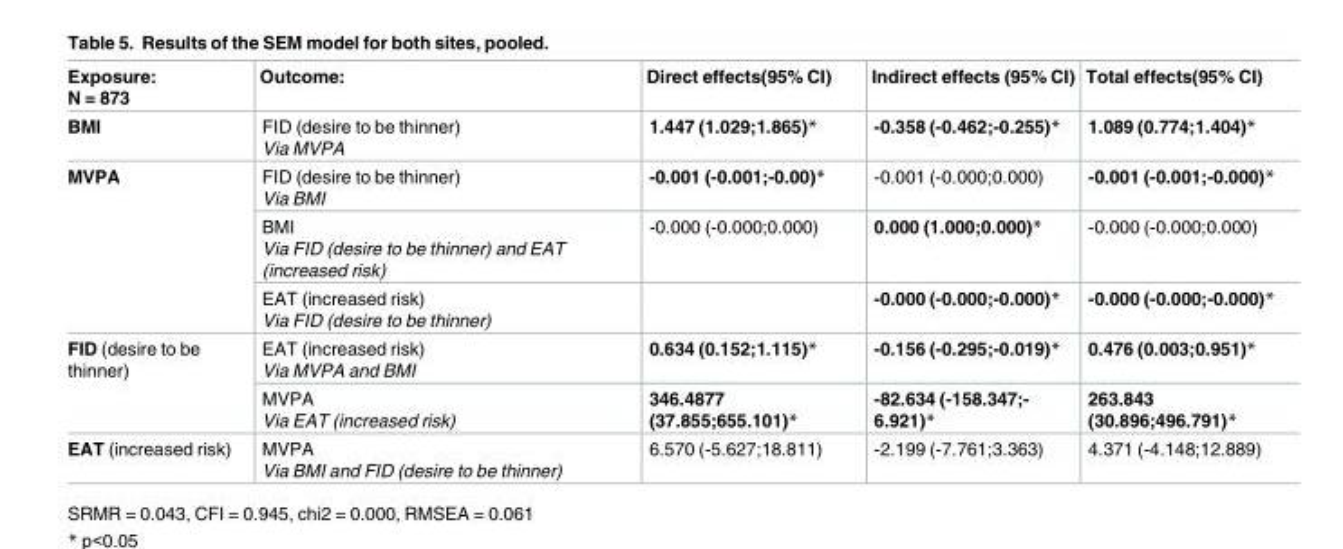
<table><thead><tr><td>Exposure: N = 873</td><td>Outcome:</td><td>Direct effects(95% CI)</td><td>Indirect effects (95% CI)</td><td>Total effects(95% CI)</td></tr></thead><tbody><tr><td>BMI</td><td>FID (desire to be thinner) Via MVPA</td><td>1.447 (1.029;1.865)*</td><td>-0.358 (-0.462;-0.255)*</td><td>1.089 (0.774;1.404)*</td></tr><tr><td rowspan="3">MVPA</td><td>FID (desire to be thinner) Via BMI</td><td>-0.001 (-0.001;-0.00)*</td><td>-0.001 (-0.000;0.000)</td><td>-0.001 (-0.001;-0.000)*</td></tr><tr><td>BMI Via FID (desire to be thinner) and EAT (increased risk)</td><td>-0.000 (-0.000;0.000)</td><td>0.000 (1.000;0.000)*</td><td>-0.000 (-0.000;0.000)</td></tr><tr><td>EAT (increased risk) Via FID (desire to be thinner)</td><td></td><td>-0.000 (-0.000;-0.000)*</td><td>-0.000 (-0.000;-0.000)*</td></tr><tr><td rowspan="2">FID (desire to be thinner)</td><td>EAT (increased risk) Via MVPA and BMI</td><td>0.634 (0.152;1.115)*</td><td>-0.156 (-0.295;-0.019)*</td><td>0.476 (0.003;0.951)*</td></tr><tr><td>MVPA Via EAT (increased risk)</td><td>346.4877 (37.855;655.101)*</td><td>-82.634 (-158.347;- 6.921)*</td><td>263.843 (30.896;496.791)*</td></tr><tr><td>EAT (increased risk)</td><td>MVPA Via BMI and FID (desire to be thinner)</td><td>6.570 (-5.627;18.811)</td><td>-2.199 (-7.761;3.363)</td><td>4.371 (-4.148;12.889)</td></tr></tbody></table>